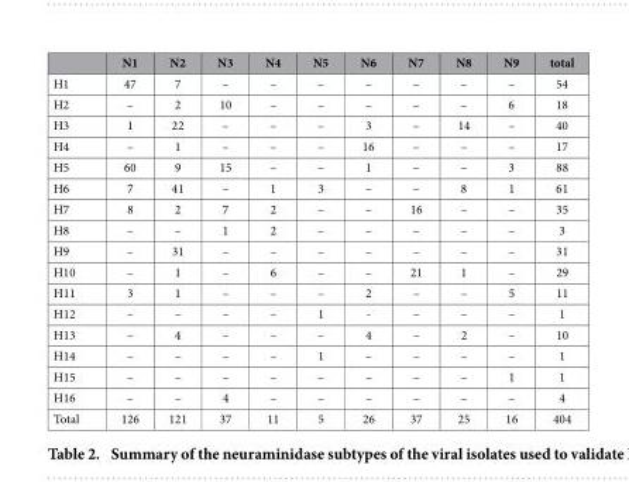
<table><thead><tr><td></td><td>N1</td><td>N2</td><td>N3</td><td>N4</td><td>N5</td><td>N6</td><td>N7</td><td>N8</td><td>N9</td><td>total</td></tr></thead><tbody><tr><td>H1</td><td>47</td><td>7</td><td>–</td><td>–</td><td>–</td><td>–</td><td>–</td><td>–</td><td>–</td><td>54</td></tr><tr><td>H2</td><td>–</td><td>2</td><td>10</td><td>–</td><td>–</td><td>–</td><td>–</td><td>–</td><td>6</td><td>18</td></tr><tr><td>H3</td><td>1</td><td>22</td><td>–</td><td>–</td><td>–</td><td>3</td><td>–</td><td>14</td><td>–</td><td>40</td></tr><tr><td>H4</td><td>–</td><td>1</td><td>–</td><td>–</td><td>–</td><td>16</td><td>–</td><td>–</td><td>–</td><td>17</td></tr><tr><td>H5</td><td>60</td><td>9</td><td>15</td><td>–</td><td>–</td><td>1</td><td>–</td><td>–</td><td>3</td><td>88</td></tr><tr><td>H6</td><td>7</td><td>41</td><td>–</td><td>1</td><td>3</td><td>–</td><td>–</td><td>8</td><td>1</td><td>61</td></tr><tr><td>H7</td><td>8</td><td>2</td><td>7</td><td>2</td><td>–</td><td>–</td><td>16</td><td>–</td><td>–</td><td>35</td></tr><tr><td>H8</td><td>–</td><td>–</td><td>1</td><td>2</td><td>–</td><td>–</td><td>–</td><td>–</td><td>–</td><td>3</td></tr><tr><td>H9</td><td>–</td><td>31</td><td>–</td><td>–</td><td>–</td><td>–</td><td>–</td><td>–</td><td>–</td><td>31</td></tr><tr><td>H10</td><td>–</td><td>1</td><td>–</td><td>6</td><td>–</td><td>–</td><td>21</td><td>1</td><td>–</td><td>29</td></tr><tr><td>H11</td><td>3</td><td>1</td><td>–</td><td>–</td><td>–</td><td>2</td><td>–</td><td>–</td><td>5</td><td>11</td></tr><tr><td>H12</td><td>–</td><td>–</td><td>–</td><td>–</td><td>1</td><td>-</td><td>–</td><td>–</td><td>–</td><td>1</td></tr><tr><td>H13</td><td>–</td><td>4</td><td>–</td><td>–</td><td>–</td><td>4</td><td>–</td><td>2</td><td>–</td><td>10</td></tr><tr><td>H14</td><td>–</td><td>–</td><td>–</td><td>–</td><td>1</td><td>–</td><td>–</td><td>–</td><td>–</td><td>1</td></tr><tr><td>H15</td><td>–</td><td>–</td><td>–</td><td>–</td><td>–</td><td>–</td><td>–</td><td>–</td><td>1</td><td>1</td></tr><tr><td>H16</td><td>–</td><td>–</td><td>4</td><td>–</td><td>–</td><td>–</td><td>–</td><td>–</td><td>–</td><td>4</td></tr><tr><td>Total</td><td>126</td><td>121</td><td>37</td><td>11</td><td>5</td><td>26</td><td>37</td><td>25</td><td>16</td><td>404</td></tr></tbody></table>